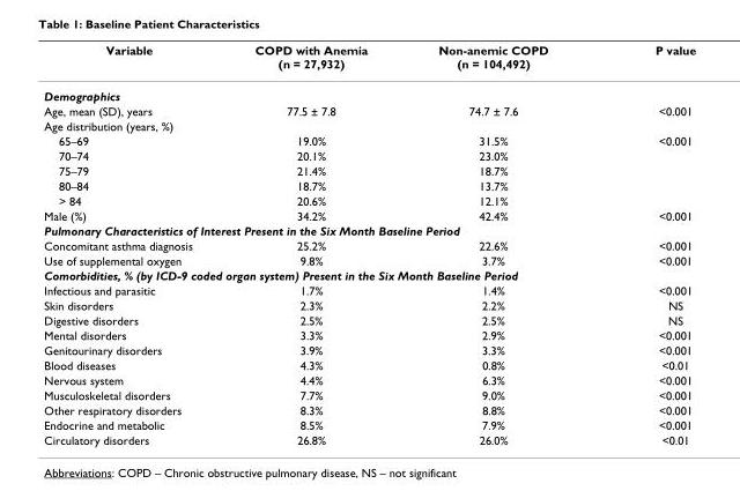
<table><thead><tr><td>Variable</td><td>COPD with Anemia (n = 27,932)</td><td>Non-anemic COPD (n = 104,492)</td><td>P value</td></tr></thead><tbody><tr><td colspan="4">Demographics</td></tr><tr><td>Age, mean (SD), years</td><td>77.5 ± 7.8</td><td>74.7 ± 7.6</td><td>&lt;0.001</td></tr><tr><td colspan="4">Age distribution (years, %)</td></tr><tr><td>65–69</td><td>19.0%</td><td>31.5%</td><td>&lt;0.001</td></tr><tr><td>70–74</td><td>20.1%</td><td>23.0%</td><td></td></tr><tr><td>75–79</td><td>21.4%</td><td>18.7%</td><td></td></tr><tr><td>80–84</td><td>18.7%</td><td>13.7%</td><td></td></tr><tr><td>&gt; 84</td><td>20.6%</td><td>12.1%</td><td></td></tr><tr><td>Male (%)</td><td>34.2%</td><td>42.4%</td><td>&lt;0.001</td></tr><tr><td colspan="4">Pulmonary Characteristics of Interest Present in the Six Month Baseline Period</td></tr><tr><td>Concomitant asthma diagnosis</td><td>25.2%</td><td>22.6%</td><td>&lt;0.001</td></tr><tr><td>Use of supplemental oxygen</td><td>9.8%</td><td>3.7%</td><td>&lt;0.001</td></tr><tr><td colspan="4">Comorbidities, % (by ICD-9 coded organ system) Present in the Six Month Baseline Period</td></tr><tr><td>Infectious and parasitic</td><td>1.7%</td><td>1.4%</td><td>&lt;0.001</td></tr><tr><td>Skin disorders</td><td>2.3%</td><td>2.2%</td><td>NS</td></tr><tr><td>Digestive disorders</td><td>2.5%</td><td>2.5%</td><td>NS</td></tr><tr><td>Mental disorders</td><td>3.3%</td><td>2.9%</td><td>&lt;0.001</td></tr><tr><td>Genitourinary disorders</td><td>3.9%</td><td>3.3%</td><td>&lt;0.001</td></tr><tr><td>Blood diseases</td><td>4.3%</td><td>0.8%</td><td>&lt;0.01</td></tr><tr><td>Nervous system</td><td>4.4%</td><td>6.3%</td><td>&lt;0.001</td></tr><tr><td>Musculoskeletal disorders</td><td>7.7%</td><td>9.0%</td><td>&lt;0.001</td></tr><tr><td>Other respiratory disorders</td><td>8.3%</td><td>8.8%</td><td>&lt;0.001</td></tr><tr><td>Endocrine and metabolic</td><td>8.5%</td><td>7.9%</td><td>&lt;0.001</td></tr><tr><td>Circulatory disorders</td><td>26.8%</td><td>26.0%</td><td>&lt;0.01</td></tr></tbody></table>